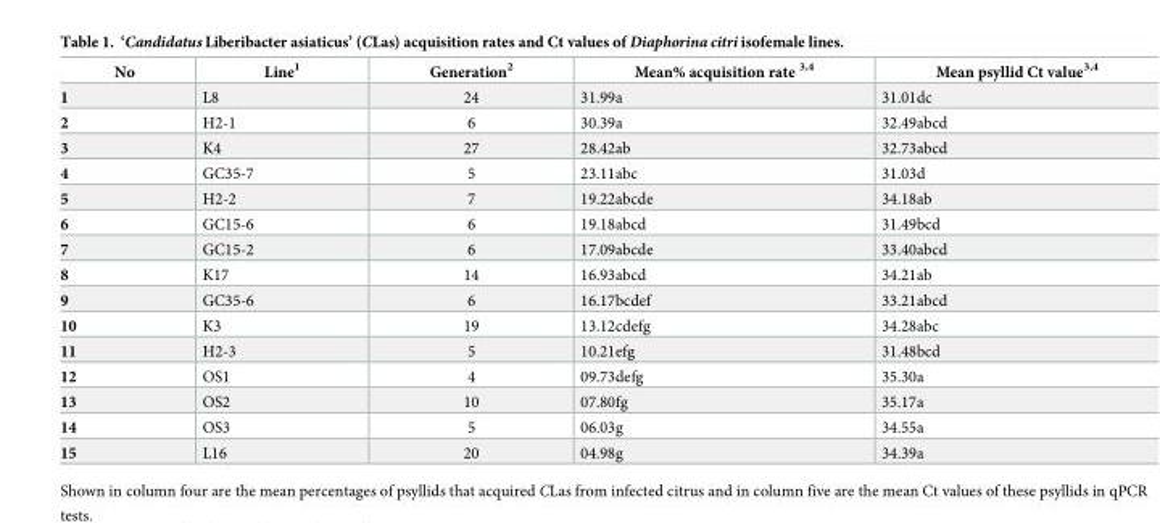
<table><thead><tr><td>No</td><td>Line<sup>1</sup></td><td>Generation<sup>2</sup></td><td>Mean% acquisition rate <sup>3,4</sup></td><td>Mean psyllid Ct value<sup>3,4</sup></td></tr></thead><tbody><tr><td>1</td><td>L8</td><td>24</td><td>31.99a</td><td>31.01dc</td></tr><tr><td>2</td><td>H2-1</td><td>6</td><td>30.39a</td><td>32.49abcd</td></tr><tr><td>3</td><td>K4</td><td>27</td><td>28.42ab</td><td>32.73abcd</td></tr><tr><td>4</td><td>GC35-7</td><td>5</td><td>23.11abc</td><td>31.03d</td></tr><tr><td>5</td><td>H2-2</td><td>7</td><td>19.22abcde</td><td>34.18ab</td></tr><tr><td>6</td><td>GC15-6</td><td>6</td><td>19.18abcd</td><td>31.49bcd</td></tr><tr><td>7</td><td>GC15-2</td><td>6</td><td>17.09abcde</td><td>33.40abcd</td></tr><tr><td>8</td><td>K17</td><td>14</td><td>16.93abcd</td><td>34.21ab</td></tr><tr><td>9</td><td>GC35-6</td><td>6</td><td>16.17bcdef</td><td>33.21abcd</td></tr><tr><td>10</td><td>K3</td><td>19</td><td>13.12cdefg</td><td>34.28abc</td></tr><tr><td>11</td><td>H2-3</td><td>5</td><td>10.21efg</td><td>31.48bcd</td></tr><tr><td>12</td><td>OS1</td><td>4</td><td>09.73defg</td><td>35.30a</td></tr><tr><td>13</td><td>OS2</td><td>10</td><td>07.80fg</td><td>35.17a</td></tr><tr><td>14</td><td>OS3</td><td>5</td><td>06.03g</td><td>34.55a</td></tr><tr><td>15</td><td>L16</td><td>20</td><td>04.98g</td><td>34.39a</td></tr></tbody></table>